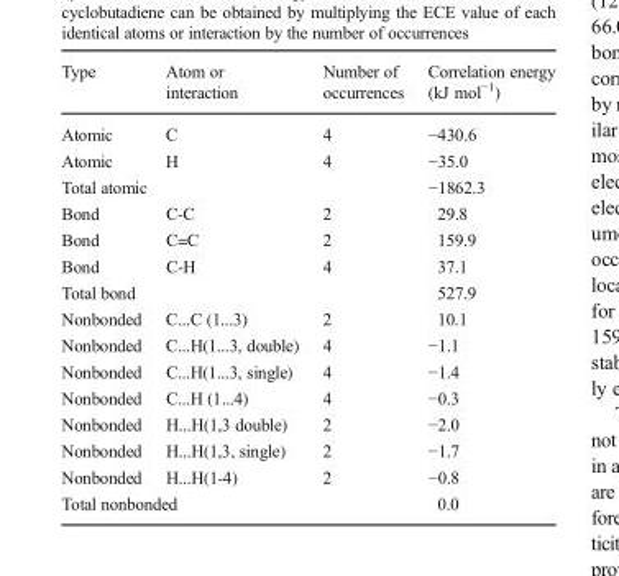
<table><thead><tr><td>Type</td><td>Atom or interaction</td><td>Number of occurrences</td><td>Correlation energy (kJ mol<sup>−1</sup>)</td></tr></thead><tbody><tr><td>Atomic</td><td>C</td><td>4</td><td>−430.6</td></tr><tr><td>Atomic</td><td>H</td><td>4</td><td>−35.0</td></tr><tr><td colspan="3">Total atomic</td><td>−1862.3</td></tr><tr><td>Bond</td><td>C-C</td><td>2</td><td>29.8</td></tr><tr><td>Bond</td><td>C=C</td><td>2</td><td>159.9</td></tr><tr><td>Bond</td><td>C-H</td><td>4</td><td>37.1</td></tr><tr><td colspan="3">Total bond</td><td>527.9</td></tr><tr><td>Nonbonded</td><td>C...C (1...3)</td><td>2</td><td>10.1</td></tr><tr><td>Nonbonded</td><td>C...H(1...3, double)</td><td>4</td><td>−1.1</td></tr><tr><td>Nonbonded</td><td>C...H(1...3, single)</td><td>4</td><td>−1.4</td></tr><tr><td>Nonbonded</td><td>C...H (1...4)</td><td>4</td><td>−0.3</td></tr><tr><td>Nonbonded</td><td>H...H(1,3 double)</td><td>2</td><td>−2.0</td></tr><tr><td>Nonbonded</td><td>H...H(1,3, single)</td><td>2</td><td>−1.7</td></tr><tr><td>Nonbonded</td><td>H...H(1-4)</td><td>2</td><td>−0.8</td></tr><tr><td colspan="3">Total nonbonded</td><td>0.0</td></tr></tbody></table>